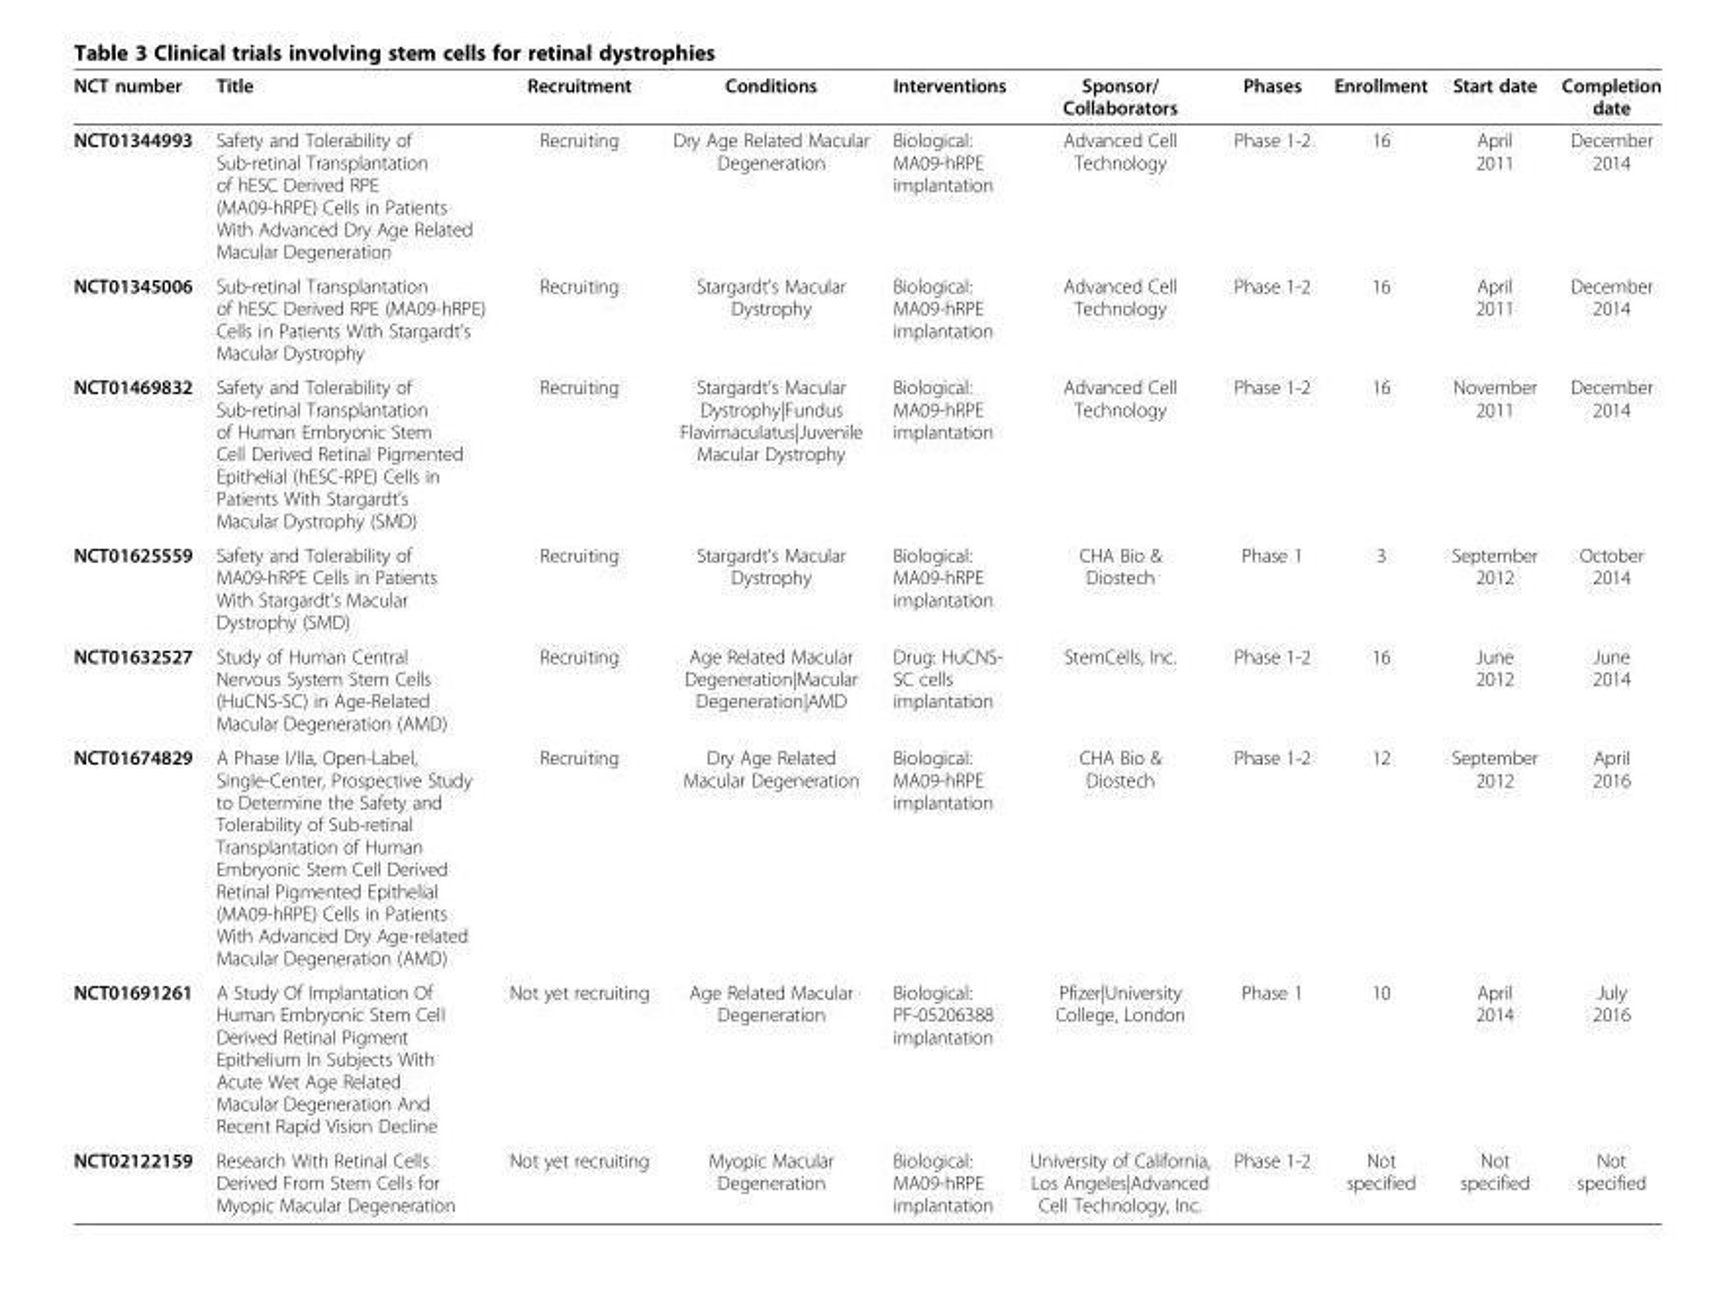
<table><thead><tr><td>NCT number</td><td>Title</td><td>Recruitment</td><td>Conditions</td><td>Interventions</td><td>Sponsor/ Collaborators</td><td>Phases</td><td>Enrollment</td><td>Start date</td><td>Completion date</td></tr></thead><tbody><tr><td>NCT01344993</td><td>Safety and Tolerability of Sub-retinal Transplantation of hESC Derived RPE (MA09-hRPE) Cells in Patients With Advanced Dry Age Related Macular Degeneration</td><td>Recruiting</td><td>Dry Age Related Macular Degeneration</td><td>Biological: MA09-hRPE implantation</td><td>Advanced Cell Technology</td><td>Phase 1-2</td><td>16</td><td>April 2011</td><td>December 2014</td></tr><tr><td>NCT01345006</td><td>Sub-retinal Transplantation of hESC Derived RPE (MA09-hRPE) Cells in Patients With Stargardt’s Macular Dystrophy</td><td>Recruiting</td><td>Stargardt’s Macular Dystrophy</td><td>Biological: MA09-hRPE implantation</td><td>Advanced Cell Technology</td><td>Phase 1-2</td><td>16</td><td>April 2011</td><td>December 2014</td></tr><tr><td>NCT01469832</td><td>Safety and Tolerability of Sub-retinal Transplantation of Human Embryonic Stem Cell Derived Retinal Pigmented Epithelial (hESC-RPE) Cells in Patients With Stargardt’s Macular Dystrophy (SMD)</td><td>Recruiting</td><td>Stargardt’s Macular Dystrophy|Fundus Flavimaculatus|Juvenile Macular Dystrophy</td><td>Biological: MA09-hRPE implantation</td><td>Advanced Cell Technology</td><td>Phase 1-2</td><td>16</td><td>November 2011</td><td>December 2014</td></tr><tr><td>NCT01625559</td><td>Safety and Tolerability of MA09-hRPE Cells in Patients With Stargardt’s Macular Dystrophy (SMD)</td><td>Recruiting</td><td>Stargardt’s Macular Dystrophy</td><td>Biological: MA09-hRPE implantation</td><td>CHA Bio &amp; Diostech</td><td>Phase 1</td><td>3</td><td>September 2012</td><td>October 2014</td></tr><tr><td>NCT01632527</td><td>Study of Human Central Nervous System Stem Cells (HuCNS-SC) in Age-Related Macular Degeneration (AMD)</td><td>Recruiting</td><td>Age Related Macular Degeneration|Macular Degeneration|AMD</td><td>Drug: HuCNS- SC cells implantation</td><td>StemCells, Inc.</td><td>Phase 1-2</td><td>16</td><td>June 2012</td><td>June 2014</td></tr><tr><td>NCT01674829</td><td>A Phase I/IIa, Open-Label, Single-Center, Prospective Study to Determine the Safety and Tolerability of Sub-retinal Transplantation of Human Embryonic Stem Cell Derived Retinal Pigmented Epithelial (MA09-hRPE) Cells in Patients With Advanced Dry Age-related Macular Degeneration (AMD)</td><td>Recruiting</td><td>Dry Age Related Macular Degeneration</td><td>Biological: MA09-hRPE implantation</td><td>CHA Bio &amp; Diostech</td><td>Phase 1-2</td><td>12</td><td>September 2012</td><td>April 2016</td></tr><tr><td>NCT01691261</td><td>A Study Of Implantation Of Human Embryonic Stem Cell Derived Retinal Pigment Epithelium In Subjects With Acute Wet Age Related Macular Degeneration And Recent Rapid Vision Decline</td><td>Not yet recruiting</td><td>Age Related Macular Degeneration</td><td>Biological: PF-05206388 implantation</td><td>Pfizer|University College, London</td><td>Phase 1</td><td>10</td><td>April 2014</td><td>July 2016</td></tr><tr><td>NCT02122159</td><td>Research With Retinal Cells Derived From Stem Cells for Myopic Macular Degeneration</td><td>Not yet recruiting</td><td>Myopic Macular Degeneration</td><td>Biological: MA09-hRPE implantation</td><td>University of California, Los Angeles|Advanced Cell Technology, Inc.</td><td>Phase 1-2</td><td>Not specified</td><td>Not specified</td><td>Not specified</td></tr></tbody></table>